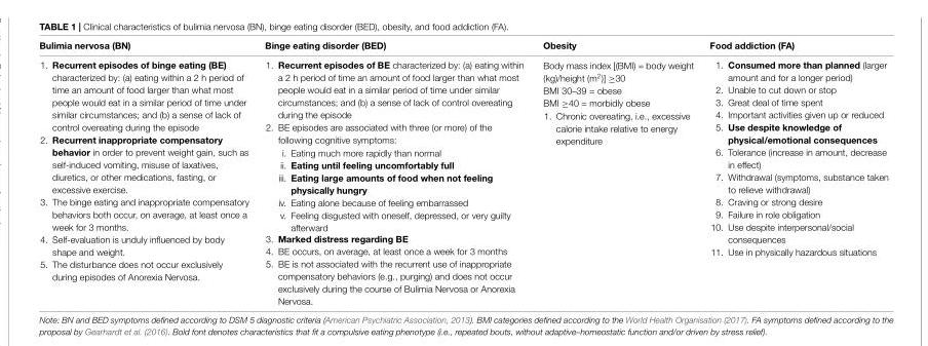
<table><thead><tr><td>Bulimia nervosa (BN)</td><td>Binge eating disorder (BED)</td><td>Obesity</td><td>Food addiction (FA)</td></tr></thead><tbody><tr><td>1. Recurrent episodes of binge eating (BE) characterized by: (a) eating within a 2 h period of time an amount of food larger than what most people would eat in a similar period of time under similar circumstances; and (b) a sense of lack of control overeating during the episode 2. Recurrent inappropriate compensatory behavior in order to prevent weight gain, such as self-induced vomiting, misuse of laxatives, diuretics, or other medications, fasting, or excessive exercise. 3. The binge eating and inappropriate compensatory behaviors both occur, on average, at least once a week for 3 months. 4. Self-evaluation is unduly influenced by body shape and weight. 5. The disturbance does not occur exclusively during episodes of Anorexia Nervosa.</td><td>1. Recurrent episodes of BE characterized by: (a) eating within a 2 h period of time an amount of food larger than what most people would eat in a similar period of time under similar circumstances; and (b) a sense of lack of control overeating during the episode 2. BE episodes are associated with three (or more) of the following cognitive symptoms: i. Eating much more rapidly than normal ii. Eating until feeling uncomfortably full iii. Eating large amounts of food when not feeling physically hungry iv. Eating alone because of feeling embarrassed v. Feeling disgusted with oneself, depressed, or very guilty afterward 3. Marked distress regarding BE 4. BE occurs, on average, at least once a week for 3 months 5. BE is not associated with the recurrent use of inappropriate compensatory behaviors (e.g., purging) and does not occur exclusively during the course of Bulimia Nervosa or Anorexia Nervosa.</td><td>Body mass index [(BMI) = body weight (kg)/height (m2)] ≥30 BMI 30–39 = obese BMI ≥40 = morbidly obese 1. Chronic overeating, i.e., excessive calorie intake relative to energy expenditure</td><td>1. Consumed more than planned (larger amount and for a longer period) 2. Unable to cut down or stop 3. Great deal of time spent 4. Important activities given up or reduced 5. Use despite knowledge of physical/emotional consequences 6. Tolerance (increase in amount, decrease in effect) 7. Withdrawal (symptoms, substance taken to relieve withdrawal) 8. Craving or strong desire 9. Failure in role obligation 10. Use despite interpersonal/social consequences 11. Use in physically hazardous situations</td></tr></tbody></table>